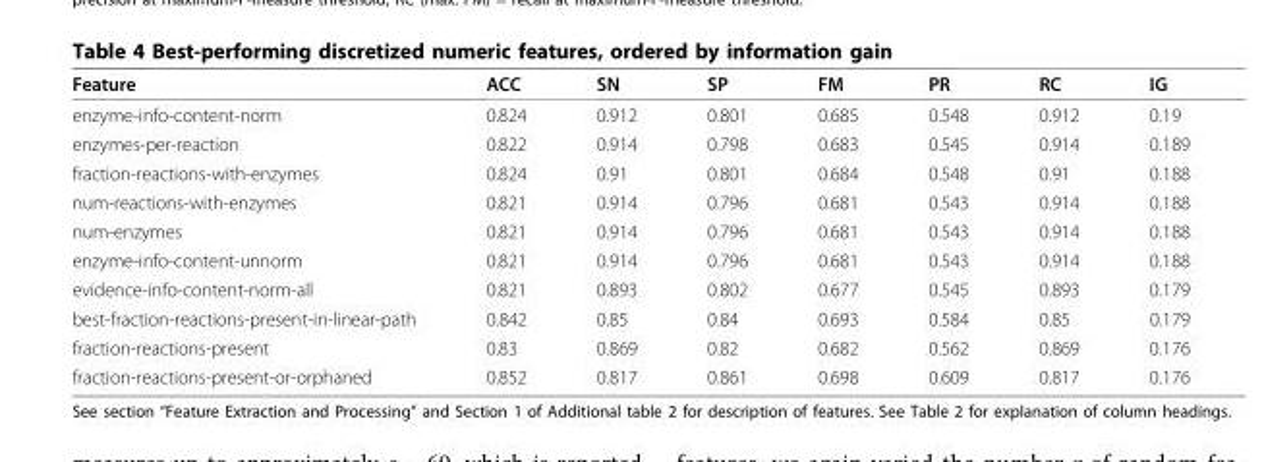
<table><thead><tr><td>Feature</td><td>ACC</td><td>SN</td><td>SP</td><td>FM</td><td>PR</td><td>RC</td><td>IG</td></tr></thead><tbody><tr><td>enzyme-info-content-norm</td><td>0.824</td><td>0.912</td><td>0.801</td><td>0.685</td><td>0.548</td><td>0.912</td><td>0.19</td></tr><tr><td>enzymes-per-reaction</td><td>0.822</td><td>0.914</td><td>0.798</td><td>0.683</td><td>0.545</td><td>0.914</td><td>0.189</td></tr><tr><td>fraction-reactions-with-enzymes</td><td>0.824</td><td>0.91</td><td>0.801</td><td>0.684</td><td>0.548</td><td>0.91</td><td>0.188</td></tr><tr><td>num-reactions-with-enzymes</td><td>0.821</td><td>0.914</td><td>0.796</td><td>0.681</td><td>0.543</td><td>0.914</td><td>0.188</td></tr><tr><td>num-enzymes</td><td>0.821</td><td>0.914</td><td>0.796</td><td>0.681</td><td>0.543</td><td>0.914</td><td>0.188</td></tr><tr><td>enzyme-info-content-unnorm</td><td>0.821</td><td>0.914</td><td>0.796</td><td>0.681</td><td>0.543</td><td>0.914</td><td>0.188</td></tr><tr><td>evidence-info-content-norm-all</td><td>0.821</td><td>0.893</td><td>0.802</td><td>0.677</td><td>0.545</td><td>0.893</td><td>0.179</td></tr><tr><td>best-fraction-reactions-present-in-linear-path</td><td>0.842</td><td>0.85</td><td>0.84</td><td>0.693</td><td>0.584</td><td>0.85</td><td>0.179</td></tr><tr><td>fraction-reactions-present</td><td>0.83</td><td>0.869</td><td>0.82</td><td>0.682</td><td>0.562</td><td>0.869</td><td>0.176</td></tr><tr><td>fraction-reactions-present-or-orphaned</td><td>0.852</td><td>0.817</td><td>0.861</td><td>0.698</td><td>0.609</td><td>0.817</td><td>0.176</td></tr></tbody></table>